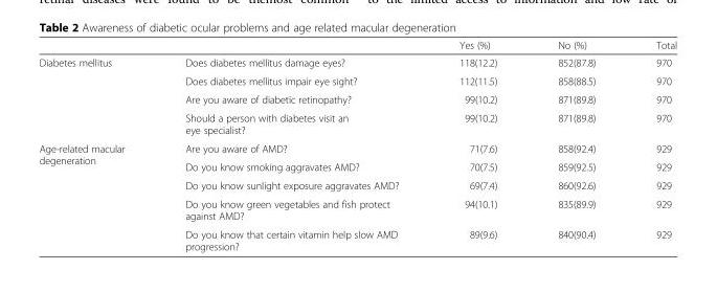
<table><thead><tr><td></td><td></td><td>Yes (%)</td><td>No (%)</td><td>Total</td></tr></thead><tbody><tr><td rowspan="4">Diabetes mellitus</td><td>Does diabetes mellitus damage eyes?</td><td>118(12.2)</td><td>852(87.8)</td><td>970</td></tr><tr><td>Does diabetes mellitus impair eye sight?</td><td>112(11.5)</td><td>858(88.5)</td><td>970</td></tr><tr><td>Are you aware of diabetic retinopathy?</td><td>99(10.2)</td><td>871(89.8)</td><td>970</td></tr><tr><td>Should a person with diabetes visit an eye specialist?</td><td>99(10.2)</td><td>871(89.8)</td><td>970</td></tr><tr><td rowspan="5">Age-related macular degeneration</td><td>Are you aware of AMD?</td><td>71(7.6)</td><td>858(92.4)</td><td>929</td></tr><tr><td>Do you know smoking aggravates AMD?</td><td>70(7.5)</td><td>859(92.5)</td><td>929</td></tr><tr><td>Do you know sunlight exposure aggravates AMD?</td><td>69(7.4)</td><td>860(92.6)</td><td>929</td></tr><tr><td>Do you know green vegetables and fish protect against AMD?</td><td>94(10.1)</td><td>835(89.9)</td><td>929</td></tr><tr><td>Do you know that certain vitamin help slow AMD progression?</td><td>89(9.6)</td><td>840(90.4)</td><td>929</td></tr></tbody></table>